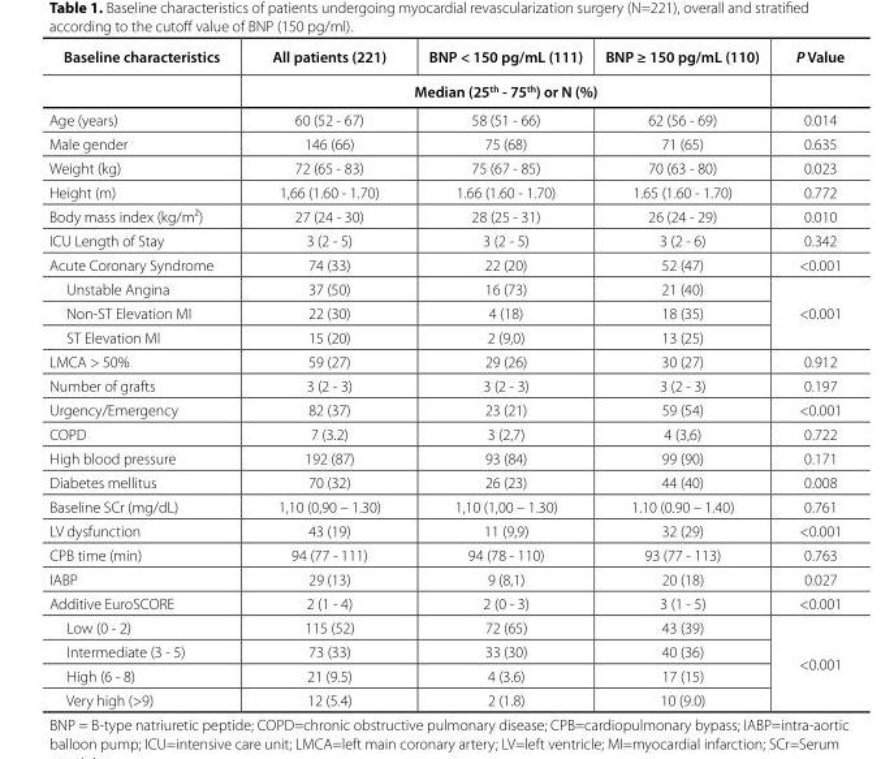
<table><thead><tr><td rowspan="2">Baseline characteristics</td><td>All patients (221)</td><td>BNP &lt; 150 pg/mL (111)</td><td>BNP ≥ 150 pg/mL (110)</td><td rowspan="2">P Value</td></tr><tr><td colspan="3">Median (25<sup>th</sup> - 75<sup>th</sup>) or N (%)</td></tr></thead><tbody><tr><td>Age (years)</td><td>60 (52 - 67)</td><td>58 (51 - 66)</td><td>62 (56 - 69)</td><td>0.014</td></tr><tr><td>Male gender</td><td>146 (66)</td><td>75 (68)</td><td>71 (65)</td><td>0.635</td></tr><tr><td>Weight (kg)</td><td>72 (65 - 83)</td><td>75 (67 - 85)</td><td>70 (63 - 80)</td><td>0.023</td></tr><tr><td>Height (m)</td><td>1,66 (1.60 - 1.70)</td><td>1.66 (1.60 - 1.70)</td><td>1.65 (1.60 - 1.70)</td><td>0.772</td></tr><tr><td>Body mass index (kg/m²)</td><td>27 (24 - 30)</td><td>28 (25 - 31)</td><td>26 (24 - 29)</td><td>0.010</td></tr><tr><td>ICU Length of Stay</td><td>3 (2 - 5)</td><td>3 (2 - 5)</td><td>3 (2 - 6)</td><td>0.342</td></tr><tr><td>Acute Coronary Syndrome</td><td>74 (33)</td><td>22 (20)</td><td>52 (47)</td><td>&lt;0.001</td></tr><tr><td>Unstable Angina</td><td>37 (50)</td><td>16 (73)</td><td>21 (40)</td><td rowspan="3">&lt;0.001</td></tr><tr><td>Non-ST Elevation MI</td><td>22 (30)</td><td>4 (18)</td><td>18 (35)</td></tr><tr><td>ST Elevation MI</td><td>15 (20)</td><td>2 (9,0)</td><td>13 (25)</td></tr><tr><td>LMCA &gt; 50%</td><td>59 (27)</td><td>29 (26)</td><td>30 (27)</td><td>0.912</td></tr><tr><td>Number of grafts</td><td>3 (2 - 3)</td><td>3 (2 - 3)</td><td>3 (2 - 3)</td><td>0.197</td></tr><tr><td>Urgency/Emergency</td><td>82 (37)</td><td>23 (21)</td><td>59 (54)</td><td>&lt;0.001</td></tr><tr><td>COPD</td><td>7 (3.2)</td><td>3 (2,7)</td><td>4 (3,6)</td><td>0.722</td></tr><tr><td>High blood pressure</td><td>192 (87)</td><td>93 (84)</td><td>99 (90)</td><td>0.171</td></tr><tr><td>Diabetes mellitus</td><td>70 (32)</td><td>26 (23)</td><td>44 (40)</td><td>0.008</td></tr><tr><td>Baseline SCr (mg/dL)</td><td>1,10 (0,90 – 1.30)</td><td>1,10 (1,00 – 1.30)</td><td>1.10 (0.90 – 1.40)</td><td>0.761</td></tr><tr><td>LV dysfunction</td><td>43 (19)</td><td>11 (9,9)</td><td>32 (29)</td><td>&lt;0.001</td></tr><tr><td>CPB time (min)</td><td>94 (77 - 111)</td><td>94 (78 - 110)</td><td>93 (77 - 113)</td><td>0.763</td></tr><tr><td>IABP</td><td>29 (13)</td><td>9 (8,1)</td><td>20 (18)</td><td>0.027</td></tr><tr><td>Additive EuroSCORE</td><td>2 (1 - 4)</td><td>2 (0 - 3)</td><td>3 (1 - 5)</td><td>&lt;0.001</td></tr><tr><td>Low (0 - 2)</td><td>115 (52)</td><td>72 (65)</td><td>43 (39)</td><td rowspan="4">&lt;0.001</td></tr><tr><td>Intermediate (3 - 5)</td><td>73 (33)</td><td>33 (30)</td><td>40 (36)</td></tr><tr><td>High (6 - 8)</td><td>21 (9.5)</td><td>4 (3.6)</td><td>17 (15)</td></tr><tr><td>Very high (&gt;9)</td><td>12 (5.4)</td><td>2 (1.8)</td><td>10 (9.0)</td></tr></tbody></table>